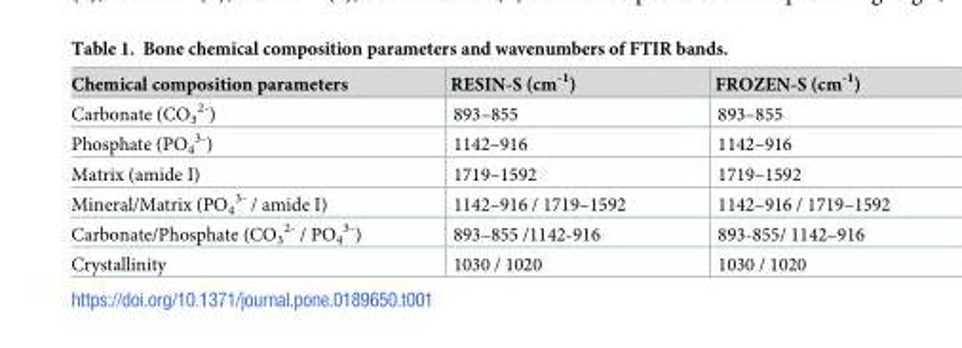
<table><thead><tr><td>Chemical composition parameters</td><td>RESIN-S (cm<sup>-1</sup>)</td><td>FROZEN-S (cm<sup>-1</sup>)</td></tr></thead><tbody><tr><td>Carbonate (CO<sub>3</sub> <sup>2-</sup>)</td><td>893–855</td><td>893–855</td></tr><tr><td>Phosphate (PO<sub>4</sub> <sup>3-</sup>)</td><td>1142–916</td><td>1142–916</td></tr><tr><td>Matrix (amide I)</td><td>1719–1592</td><td>1719–1592</td></tr><tr><td>Mineral/Matrix (PO<sub>4</sub> <sup>3-</sup> / amide I)</td><td>1142–916 / 1719–1592</td><td>1142–916 / 1719–1592</td></tr><tr><td>Carbonate/Phosphate (CO<sub>3</sub> <sup>2-</sup> / PO<sub>4</sub> <sup>3-</sup>)</td><td>893–855 /1142-916</td><td>893-855/ 1142–916</td></tr><tr><td>Crystallinity</td><td>1030 / 1020</td><td>1030 / 1020</td></tr></tbody></table>